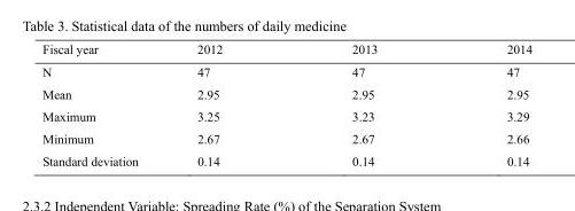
<table><thead><tr><td>Fiscal year</td><td>2012</td><td>2013</td><td>2014</td></tr></thead><tbody><tr><td>N</td><td>47</td><td>47</td><td>47</td></tr><tr><td>Mean</td><td>2.95</td><td>2.95</td><td>2.95</td></tr><tr><td>Maximum</td><td>3.25</td><td>3.23</td><td>3.29</td></tr><tr><td>Minimum</td><td>2.67</td><td>2.67</td><td>2.66</td></tr><tr><td>Standard deviation</td><td>0.14</td><td>0.14</td><td>0.14</td></tr></tbody></table>